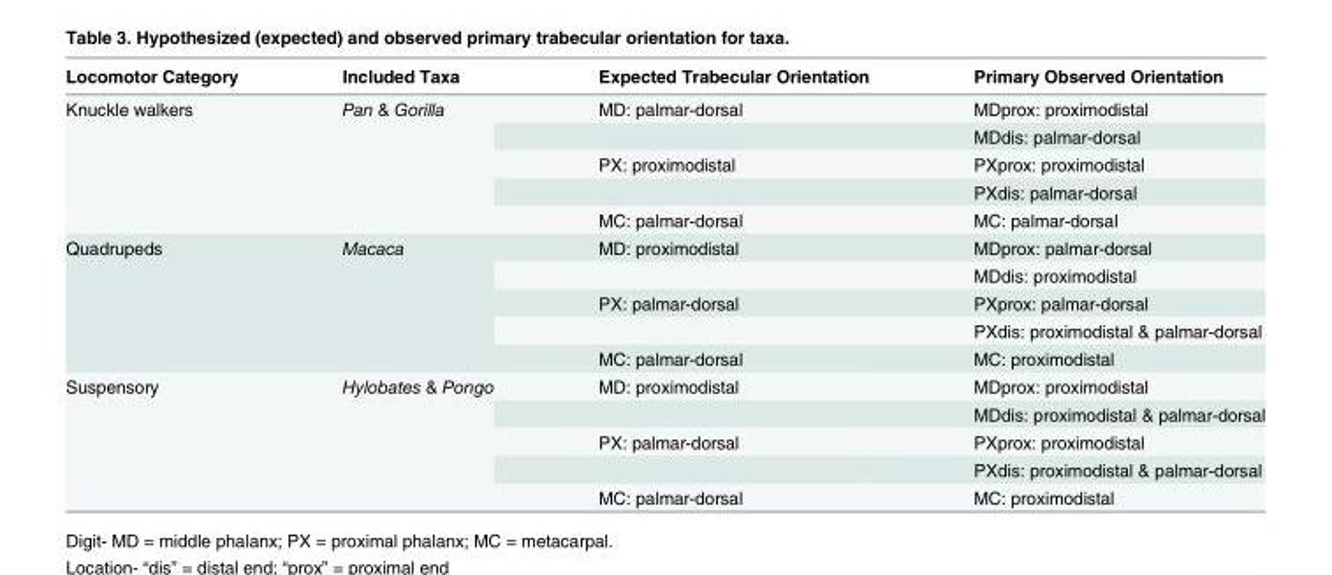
<table><thead><tr><td>Locomotor Category</td><td>Included Taxa</td><td>Expected Trabecular Orientation</td><td>Primary Observed Orientation</td></tr></thead><tbody><tr><td rowspan="5">Knuckle walkers</td><td rowspan="5">Pan &amp; Gorilla</td><td>MD: palmar-dorsal</td><td>MDprox: proximodistal</td></tr><tr><td></td><td>MDdis: palmar-dorsal</td></tr><tr><td>PX: proximodistal</td><td>PXprox: proximodistal</td></tr><tr><td></td><td>PXdis: palmar-dorsal</td></tr><tr><td>MC: palmar-dorsal</td><td>MC: palmar-dorsal</td></tr><tr><td rowspan="5">Quadrupeds</td><td rowspan="5">Macaca</td><td>MD: proximodistal</td><td>MDprox: palmar-dorsal</td></tr><tr><td></td><td>MDdis: proximodistal</td></tr><tr><td>PX: palmar-dorsal</td><td>PXprox: palmar-dorsal</td></tr><tr><td></td><td>PXdis: proximodistal &amp; palmar-dorsal</td></tr><tr><td>MC: palmar-dorsal</td><td>MC: proximodistal</td></tr><tr><td rowspan="5">Suspensory</td><td rowspan="5">Hylobates &amp; Pongo</td><td>MD: proximodistal</td><td>MDprox: proximodistal</td></tr><tr><td></td><td>MDdis: proximodistal &amp; palmar-dorsal</td></tr><tr><td>PX: palmar-dorsal</td><td>PXprox: proximodistal</td></tr><tr><td></td><td>PXdis: proximodistal &amp; palmar-dorsal</td></tr><tr><td>MC: palmar-dorsal</td><td>MC: proximodistal</td></tr></tbody></table>